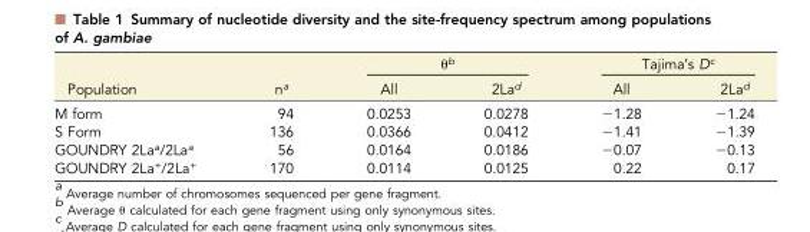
<table><thead><tr><td rowspan="2">Population</td><td rowspan="2">n<sup>a</sup></td><td colspan="2">θ<sup>b</sup></td><td colspan="2">Tajima’s D<sup>c</sup></td></tr><tr><td>All</td><td>2La<sup>d</sup></td><td>All</td><td>2La<sup>d</sup></td></tr></thead><tbody><tr><td>M form</td><td>94</td><td>0.0253</td><td>0.0278</td><td>−1.28</td><td>−1.24</td></tr><tr><td>S Form</td><td>136</td><td>0.0366</td><td>0.0412</td><td>−1.41</td><td>−1.39</td></tr><tr><td>GOUNDRY 2La<sup>a</sup>/2La<sup>a</sup></td><td>56</td><td>0.0164</td><td>0.0186</td><td>−0.07</td><td>−0.13</td></tr><tr><td>GOUNDRY 2La<sup>+</sup>/2La<sup>+</sup></td><td>170</td><td>0.0114</td><td>0.0125</td><td>0.22</td><td>0.17</td></tr></tbody></table>